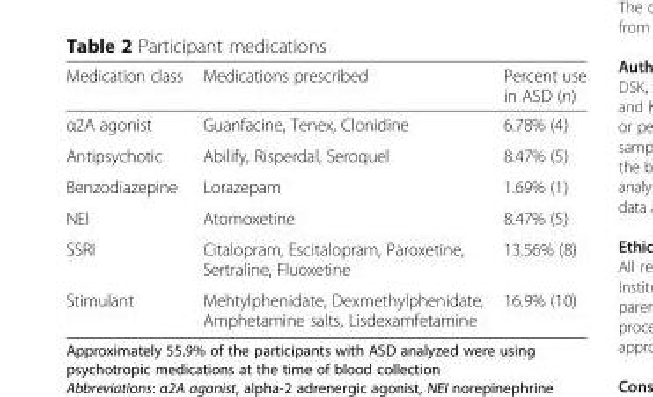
<table><thead><tr><td>Medication class</td><td>Medications prescribed</td><td>Percent use in ASD (n)</td></tr></thead><tbody><tr><td>α2A agonist</td><td>Guanfacine, Tenex, Clonidine</td><td>6.78% (4)</td></tr><tr><td>Antipsychotic</td><td>Abilify, Risperdal, Seroquel</td><td>8.47% (5)</td></tr><tr><td>Benzodiazepine</td><td>Lorazepam</td><td>1.69% (1)</td></tr><tr><td>NEI</td><td>Atomoxetine</td><td>8.47% (5)</td></tr><tr><td>SSRI</td><td>Citalopram, Escitalopram, Paroxetine, Sertraline, Fluoxetine</td><td>13.56% (8)</td></tr><tr><td>Stimulant</td><td>Mehtylphenidate, Dexmethylphenidate, Amphetamine salts, Lisdexamfetamine</td><td>16.9% (10)</td></tr></tbody></table>